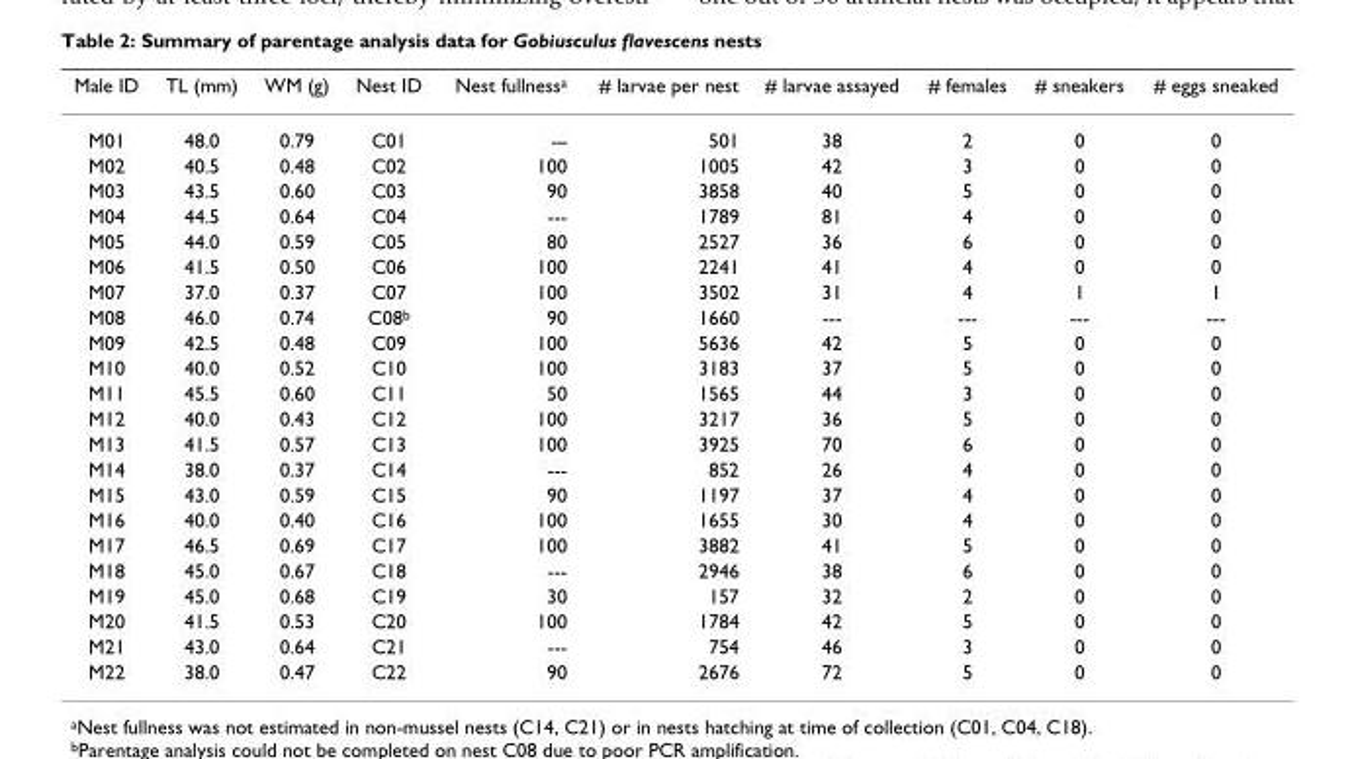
<table><thead><tr><td>Male ID</td><td>TL (mm)</td><td>WM (g)</td><td>Nest ID</td><td>Nest fullness<sup>a</sup></td><td># larvae per nest</td><td># larvae assayed</td><td># females</td><td># sneakers</td><td># eggs sneaked</td></tr></thead><tbody><tr><td>M01</td><td>48.0</td><td>0.79</td><td>C01</td><td>---</td><td>501</td><td>38</td><td>2</td><td>0</td><td>0</td></tr><tr><td>M02</td><td>40.5</td><td>0.48</td><td>C02</td><td>100</td><td>1005</td><td>42</td><td>3</td><td>0</td><td>0</td></tr><tr><td>M03</td><td>43.5</td><td>0.60</td><td>C03</td><td>90</td><td>3858</td><td>40</td><td>5</td><td>0</td><td>0</td></tr><tr><td>M04</td><td>44.5</td><td>0.64</td><td>C04</td><td>---</td><td>1789</td><td>81</td><td>4</td><td>0</td><td>0</td></tr><tr><td>M05</td><td>44.0</td><td>0.59</td><td>C05</td><td>80</td><td>2527</td><td>36</td><td>6</td><td>0</td><td>0</td></tr><tr><td>M06</td><td>41.5</td><td>0.50</td><td>C06</td><td>100</td><td>2241</td><td>41</td><td>4</td><td>0</td><td>0</td></tr><tr><td>M07</td><td>37.0</td><td>0.37</td><td>C07</td><td>100</td><td>3502</td><td>31</td><td>4</td><td>1</td><td>1</td></tr><tr><td>M08</td><td>46.0</td><td>0.74</td><td>C08<sup>b</sup></td><td>90</td><td>1660</td><td>---</td><td>---</td><td>---</td><td>---</td></tr><tr><td>M09</td><td>42.5</td><td>0.48</td><td>C09</td><td>100</td><td>5636</td><td>42</td><td>5</td><td>0</td><td>0</td></tr><tr><td>M10</td><td>40.0</td><td>0.52</td><td>C10</td><td>100</td><td>3183</td><td>37</td><td>5</td><td>0</td><td>0</td></tr><tr><td>M11</td><td>45.5</td><td>0.60</td><td>C11</td><td>50</td><td>1565</td><td>44</td><td>3</td><td>0</td><td>0</td></tr><tr><td>M12</td><td>40.0</td><td>0.43</td><td>C12</td><td>100</td><td>3217</td><td>36</td><td>5</td><td>0</td><td>0</td></tr><tr><td>M13</td><td>41.5</td><td>0.57</td><td>C13</td><td>100</td><td>3925</td><td>70</td><td>6</td><td>0</td><td>0</td></tr><tr><td>M14</td><td>38.0</td><td>0.37</td><td>C14</td><td>---</td><td>852</td><td>26</td><td>4</td><td>0</td><td>0</td></tr><tr><td>M15</td><td>43.0</td><td>0.59</td><td>C15</td><td>90</td><td>1197</td><td>37</td><td>4</td><td>0</td><td>0</td></tr><tr><td>M16</td><td>40.0</td><td>0.40</td><td>C16</td><td>100</td><td>1655</td><td>30</td><td>4</td><td>0</td><td>0</td></tr><tr><td>M17</td><td>46.5</td><td>0.69</td><td>C17</td><td>100</td><td>3882</td><td>41</td><td>5</td><td>0</td><td>0</td></tr><tr><td>M18</td><td>45.0</td><td>0.67</td><td>C18</td><td>---</td><td>2946</td><td>38</td><td>6</td><td>0</td><td>0</td></tr><tr><td>M19</td><td>45.0</td><td>0.68</td><td>C19</td><td>30</td><td>157</td><td>32</td><td>2</td><td>0</td><td>0</td></tr><tr><td>M20</td><td>41.5</td><td>0.53</td><td>C20</td><td>100</td><td>1784</td><td>42</td><td>5</td><td>0</td><td>0</td></tr><tr><td>M21</td><td>43.0</td><td>0.64</td><td>C21</td><td>---</td><td>754</td><td>46</td><td>3</td><td>0</td><td>0</td></tr><tr><td>M22</td><td>38.0</td><td>0.47</td><td>C22</td><td>90</td><td>2676</td><td>72</td><td>5</td><td>0</td><td>0</td></tr></tbody></table>